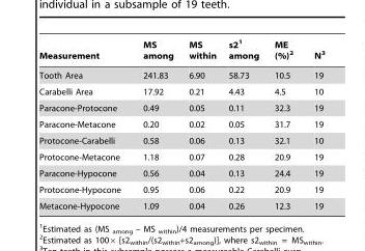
<table><thead><tr><td>Measurement</td><td>MS among</td><td>MS within</td><td>s2<sup>1</sup> among</td><td>ME (%)<sup>2</sup></td><td>N<sup>3</sup></td></tr></thead><tbody><tr><td>Tooth Area</td><td>241.83</td><td>6.90</td><td>58.73</td><td>10.5</td><td>19</td></tr><tr><td>Carabelli Area</td><td>17.92</td><td>0.21</td><td>4.43</td><td>4.5</td><td>10</td></tr><tr><td>Paracone-Protocone</td><td>0.49</td><td>0.05</td><td>0.11</td><td>32.3</td><td>19</td></tr><tr><td>Paracone-Metacone</td><td>0.20</td><td>0.02</td><td>0.05</td><td>31.7</td><td>19</td></tr><tr><td>Protocone-Carabelli</td><td>0.58</td><td>0.06</td><td>0.13</td><td>32.1</td><td>10</td></tr><tr><td>Protocone-Metacone</td><td>1.18</td><td>0.07</td><td>0.28</td><td>20.9</td><td>19</td></tr><tr><td>Paracone-Hypocone</td><td>0.56</td><td>0.04</td><td>0.13</td><td>24.4</td><td>19</td></tr><tr><td>Protocone-Hypocone</td><td>0.95</td><td>0.06</td><td>0.22</td><td>20.9</td><td>19</td></tr><tr><td>Metacone-Hypocone</td><td>1.09</td><td>0.04</td><td>0.26</td><td>12.3</td><td>19</td></tr></tbody></table>